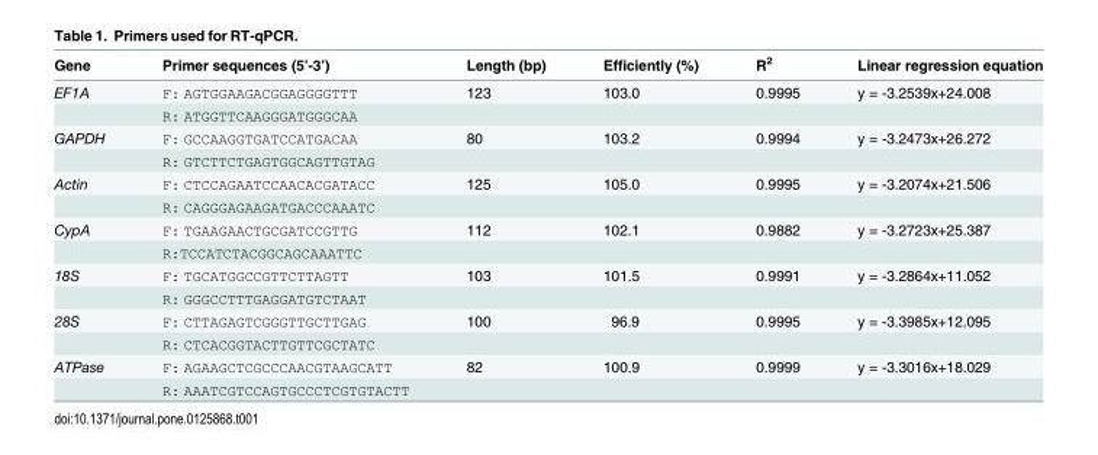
<table><thead><tr><td>Gene</td><td>Primer sequences (5’-3’)</td><td>Length (bp)</td><td>Efficiently (%)</td><td>R<sup>2</sup></td><td>Linear regression equation</td></tr></thead><tbody><tr><td rowspan="2">EF1A</td><td>F: AGTGGAAGACGGAGGGGTTT</td><td>123</td><td>103.0</td><td>0.9995</td><td>y = -3.2539x+24.008</td></tr><tr><td>R: ATGGTTCAAGGGATGGGCAA</td><td></td><td></td><td></td><td></td></tr><tr><td rowspan="2">GAPDH</td><td>F: GCCAAGGTGATCCATGACAA</td><td>80</td><td>103.2</td><td>0.9994</td><td>y = -3.2473x+26.272</td></tr><tr><td>R: GTCTTCTGAGTGGCAGTTGTAG</td><td></td><td></td><td></td><td></td></tr><tr><td rowspan="2">Actin</td><td>F: CTCCAGAATCCAACACGATACC</td><td>125</td><td>105.0</td><td>0.9995</td><td>y = -3.2074x+21.506</td></tr><tr><td>R: CAGGGAGAAGATGACCCAAATC</td><td></td><td></td><td></td><td></td></tr><tr><td rowspan="2">CypA</td><td>F: TGAAGAACTGCGATCCGTTG</td><td>112</td><td>102.1</td><td>0.9882</td><td>y = -3.2723x+25.387</td></tr><tr><td>R:TCCATCTACGGCAGCAAATTC</td><td></td><td></td><td></td><td></td></tr><tr><td rowspan="2">18S</td><td>F: TGCATGGCCGTTCTTAGTT</td><td>103</td><td>101.5</td><td>0.9991</td><td>y = -3.2864x+11.052</td></tr><tr><td>R: GGGCCTTTGAGGATGTCTAAT</td><td></td><td></td><td></td><td></td></tr><tr><td rowspan="2">28S</td><td>F: CTTAGAGTCGGGTTGCTTGAG</td><td>100</td><td>96.9</td><td>0.9995</td><td>y = -3.3985x+12.095</td></tr><tr><td>R: CTCACGGTACTTGTTCGCTATC</td><td></td><td></td><td></td><td></td></tr><tr><td rowspan="2">ATPase</td><td>F: AGAAGCTCGCCCAACGTAAGCATT</td><td>82</td><td>100.9</td><td>0.9999</td><td>y = -3.3016x+18.029</td></tr><tr><td>R: AAATCGTCCAGTGCCCTCGTGTACTT</td><td></td><td></td><td></td><td></td></tr></tbody></table>